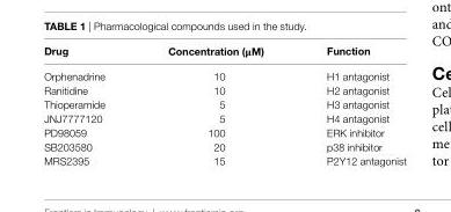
<table><thead><tr><td>Drug</td><td>concentration (μM)</td><td>Function</td></tr></thead><tbody><tr><td>Orphenadrine</td><td>10</td><td>H1 antagonist</td></tr><tr><td>Ranitidine</td><td>10</td><td>H2 antagonist</td></tr><tr><td>Thioperamide</td><td>5</td><td>H3 antagonist</td></tr><tr><td>JNJ7777120</td><td>5</td><td>H4 antagonist</td></tr><tr><td>PD98059</td><td>100</td><td>ERK inhibitor</td></tr><tr><td>SB203580</td><td>20</td><td>p38 inhibitor</td></tr><tr><td>MRS2395</td><td>15</td><td>P2Y12 antagonist</td></tr></tbody></table>